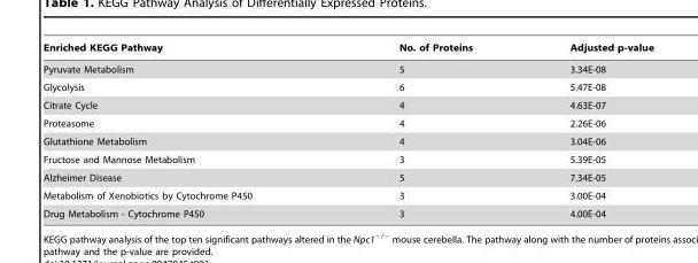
<table><thead><tr><td>Enriched KEGG Pathway</td><td>No. of Proteins</td><td>Adjusted p-value</td></tr></thead><tbody><tr><td>Pyruvate Metabolism</td><td>5</td><td>3.34E-08</td></tr><tr><td>Glycolysis</td><td>6</td><td>5.47E-08</td></tr><tr><td>Citrate Cycle</td><td>4</td><td>4.63E-07</td></tr><tr><td>Proteasome</td><td>4</td><td>2.26E-06</td></tr><tr><td>Glutathione Metabolism</td><td>4</td><td>3.04E-06</td></tr><tr><td>Fructose and Mannose Metabolism</td><td>3</td><td>5.39E-05</td></tr><tr><td>Alzheimer Disease</td><td>5</td><td>7.34E-05</td></tr><tr><td>Metabolism of Xenobiotics by Cytochrome P450</td><td>3</td><td>3.00E-04</td></tr><tr><td>Drug Metabolism - Cytochrome P450</td><td>3</td><td>4.00E-04</td></tr></tbody></table>